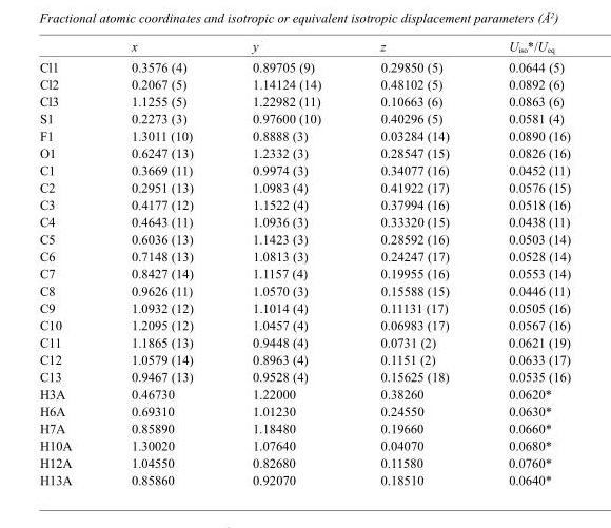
<table><thead><tr><td></td><td>x</td><td>y</td><td>z</td><td>U<sub>iso</sub>*/U<sub>eq</sub></td></tr></thead><tbody><tr><td>Cl1</td><td>0.3576 (4)</td><td>0.89705 (9)</td><td>0.29850 (5)</td><td>0.0644 (5)</td></tr><tr><td>Cl2</td><td>0.2067 (5)</td><td>1.14124 (14)</td><td>0.48102 (5)</td><td>0.0892 (6)</td></tr><tr><td>Cl3</td><td>1.1255 (5)</td><td>1.22982 (11)</td><td>0.10663 (6)</td><td>0.0863 (6)</td></tr><tr><td>S1</td><td>0.2273 (3)</td><td>0.97600 (10)</td><td>0.40296 (5)</td><td>0.0581 (4)</td></tr><tr><td>F1</td><td>1.3011 (10)</td><td>0.8888 (3)</td><td>0.03284 (14)</td><td>0.0890 (16)</td></tr><tr><td>O1</td><td>0.6247 (13)</td><td>1.2332 (3)</td><td>0.28547 (15)</td><td>0.0826 (16)</td></tr><tr><td>C1</td><td>0.3669 (11)</td><td>0.9974 (3)</td><td>0.34077 (16)</td><td>0.0452 (11)</td></tr><tr><td>C2</td><td>0.2951 (13)</td><td>1.0983 (4)</td><td>0.41922 (17)</td><td>0.0576 (15)</td></tr><tr><td>C3</td><td>0.4177 (12)</td><td>1.1522 (4)</td><td>0.37994 (16)</td><td>0.0518 (16)</td></tr><tr><td>C4</td><td>0.4643 (11)</td><td>1.0936 (3)</td><td>0.33320 (15)</td><td>0.0438 (11)</td></tr><tr><td>C5</td><td>0.6036 (13)</td><td>1.1423 (3)</td><td>0.28592 (16)</td><td>0.0503 (14)</td></tr><tr><td>C6</td><td>0.7148 (13)</td><td>1.0813 (3)</td><td>0.24247 (17)</td><td>0.0528 (14)</td></tr><tr><td>C7</td><td>0.8427 (14)</td><td>1.1157 (4)</td><td>0.19955 (16)</td><td>0.0553 (14)</td></tr><tr><td>C8</td><td>0.9626 (11)</td><td>1.0570 (3)</td><td>0.15588 (15)</td><td>0.0446 (11)</td></tr><tr><td>C9</td><td>1.0932 (12)</td><td>1.1014 (4)</td><td>0.11131 (17)</td><td>0.0505 (16)</td></tr><tr><td>C10</td><td>1.2095 (12)</td><td>1.0457 (4)</td><td>0.06983 (17)</td><td>0.0567 (16)</td></tr><tr><td>C11</td><td>1.1865 (13)</td><td>0.9448 (4)</td><td>0.0731 (2)</td><td>0.0621 (19)</td></tr><tr><td>C12</td><td>1.0579 (14)</td><td>0.8963 (4)</td><td>0.1151 (2)</td><td>0.0633 (17)</td></tr><tr><td>C13</td><td>0.9467 (13)</td><td>0.9528 (4)</td><td>0.15625 (18)</td><td>0.0535 (16)</td></tr><tr><td>H3A</td><td>0.46730</td><td>1.22000</td><td>0.38260</td><td>0.0620*</td></tr><tr><td>H6A</td><td>0.69310</td><td>1.01230</td><td>0.24550</td><td>0.0630*</td></tr><tr><td>H7A</td><td>0.85890</td><td>1.18480</td><td>0.19660</td><td>0.0660*</td></tr><tr><td>H10A</td><td>1.30020</td><td>1.07640</td><td>0.04070</td><td>0.0680*</td></tr><tr><td>H12A</td><td>1.04550</td><td>0.82680</td><td>0.11580</td><td>0.0760*</td></tr><tr><td>H13A</td><td>0.85860</td><td>0.92070</td><td>0.18510</td><td>0.0640*</td></tr></tbody></table>